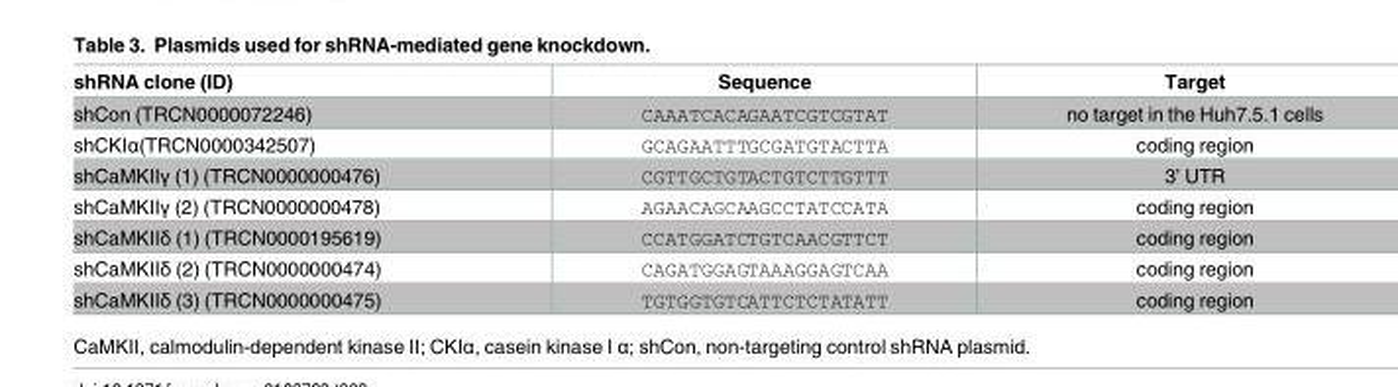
<table><thead><tr><td>shRNA clone (ID)</td><td>Sequence</td><td>Target</td></tr></thead><tbody><tr><td>shCon (TRCN0000072246)</td><td>CAAATCACAGAATCGTCGTAT</td><td>no target in the Huh7.5.1 cells</td></tr><tr><td>shCKIα(TRCN0000342507)</td><td>GCAGAATTTGCGATGTACTTA</td><td>coding region</td></tr><tr><td>shCaMKIIγ (1) (TRCN0000000476)</td><td>CGTTGCTGTACTGTCTTGTTT</td><td>3’ UTR</td></tr><tr><td>shCaMKIIγ (2) (TRCN0000000478)</td><td>AGAACAGCAAGCCTATCCATA</td><td>coding region</td></tr><tr><td>shCaMKIIδ (1) (TRCN0000195619)</td><td>CCATGGATCTGTCAACGTTCT</td><td>coding region</td></tr><tr><td>shCaMKIIδ (2) (TRCN0000000474)</td><td>CAGATGGAGTAAAGGAGTCAA</td><td>coding region</td></tr><tr><td>shCaMKIIδ (3) (TRCN0000000475)</td><td>TGTGGTGTCATTCTCTATATT</td><td>coding region</td></tr></tbody></table>